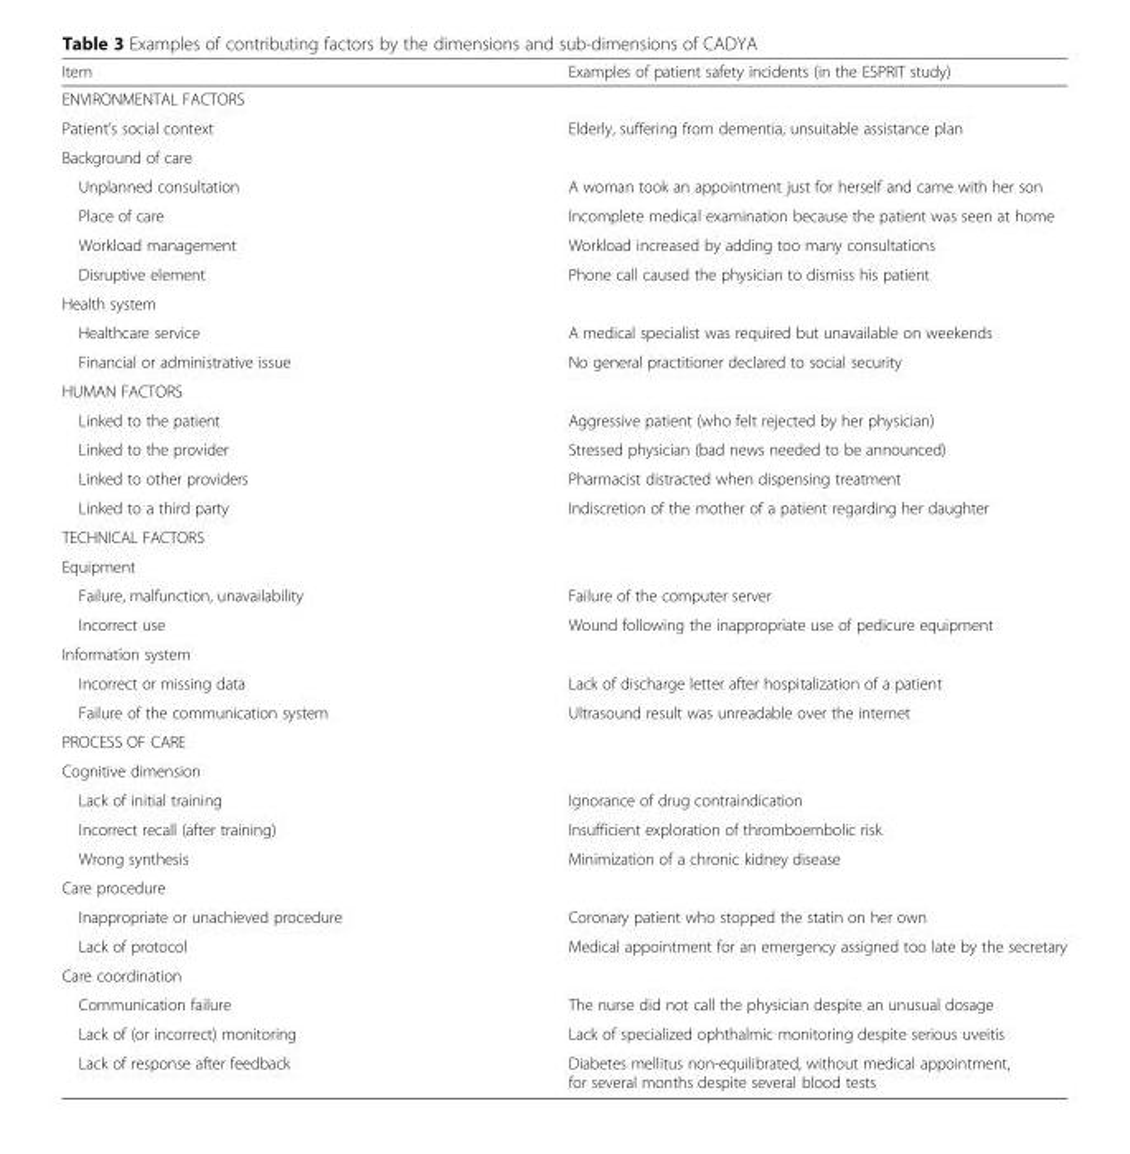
<table><thead><tr><td>Item</td><td>Examples of patient safety incidents (in the ESPRIT study)</td></tr></thead><tbody><tr><td colspan="2">ENVIRONMENTAL FACTORS</td></tr><tr><td>Patient’s social context</td><td>Elderly, suffering from dementia, unsuitable assistance plan</td></tr><tr><td colspan="2">Background of care</td></tr><tr><td>Unplanned consultation</td><td>A woman took an appointment just for herself and came with her son</td></tr><tr><td>Place of care</td><td>Incomplete medical examination because the patient was seen at home</td></tr><tr><td>Workload management</td><td>Workload increased by adding too many consultations</td></tr><tr><td>Disruptive element</td><td>Phone call caused the physician to dismiss his patient</td></tr><tr><td colspan="2">Health system</td></tr><tr><td>Healthcare service</td><td>A medical specialist was required but unavailable on weekends</td></tr><tr><td>Financial or administrative issue</td><td>No general practitioner declared to social security</td></tr><tr><td colspan="2">HUMAN FACTORS</td></tr><tr><td>Linked to the patient</td><td>Aggressive patient (who felt rejected by her physician)</td></tr><tr><td>Linked to the provider</td><td>Stressed physician (bad news needed to be announced)</td></tr><tr><td>Linked to other providers</td><td>Pharmacist distracted when dispensing treatment</td></tr><tr><td>Linked to a third party</td><td>Indiscretion of the mother of a patient regarding her daughter</td></tr><tr><td colspan="2">TECHNICAL FACTORS</td></tr><tr><td colspan="2">Equipment</td></tr><tr><td>Failure, malfunction, unavailability</td><td>Failure of the computer server</td></tr><tr><td>Incorrect use</td><td>Wound following the inappropriate use of pedicure equipment</td></tr><tr><td colspan="2">Information system</td></tr><tr><td>Incorrect or missing data</td><td>Lack of discharge letter after hospitalization of a patient</td></tr><tr><td>Failure of the communication system</td><td>Ultrasound result was unreadable over the internet</td></tr><tr><td colspan="2">PROCESS OF CARE</td></tr><tr><td colspan="2">Cognitive dimension</td></tr><tr><td>Lack of initial training</td><td>Ignorance of drug contraindication</td></tr><tr><td>Incorrect recall (after training)</td><td>Insufficient exploration of thromboembolic risk</td></tr><tr><td>Wrong synthesis</td><td>Minimization of a chronic kidney disease</td></tr><tr><td colspan="2">Care procedure</td></tr><tr><td>Inappropriate or unachieved procedure</td><td>Coronary patient who stopped the statin on her own</td></tr><tr><td>Lack of protocol</td><td>Medical appointment for an emergency assigned too late by the secretary</td></tr><tr><td colspan="2">Care coordination</td></tr><tr><td>Communication failure</td><td>The nurse did not call the physician despite an unusual dosage</td></tr><tr><td>Lack of (or incorrect) monitoring</td><td>Lack of specialized ophthalmic monitoring despite serious uveitis</td></tr><tr><td>Lack of response after feedback</td><td>Diabetes mellitus non-equilibrated, without medical appointment, for several months despite several blood tests</td></tr></tbody></table>